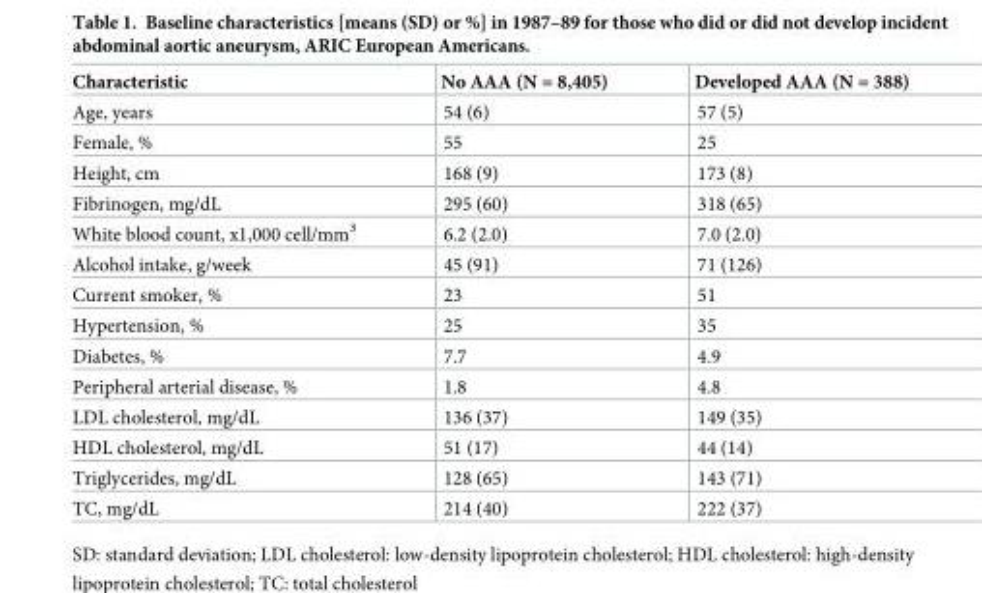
<table><thead><tr><td>Characteristic</td><td>No AAA (N = 8,405)</td><td>Developed AAA (N = 388)</td></tr></thead><tbody><tr><td>Age, years</td><td>54 (6)</td><td>57 (5)</td></tr><tr><td>Female, %</td><td>55</td><td>25</td></tr><tr><td>Height, cm</td><td>168 (9)</td><td>173 (8)</td></tr><tr><td>Fibrinogen, mg/dL</td><td>295 (60)</td><td>318 (65)</td></tr><tr><td>White blood count, x1,000 cell/mm<sup>3</sup></td><td>6.2 (2.0)</td><td>7.0 (2.0)</td></tr><tr><td>Alcohol intake, g/week</td><td>45 (91)</td><td>71 (126)</td></tr><tr><td>Current smoker, %</td><td>23</td><td>51</td></tr><tr><td>Hypertension, %</td><td>25</td><td>35</td></tr><tr><td>Diabetes, %</td><td>7.7</td><td>4.9</td></tr><tr><td>Peripheral arterial disease, %</td><td>1.8</td><td>4.8</td></tr><tr><td>LDL cholesterol, mg/dL</td><td>136 (37)</td><td>149 (35)</td></tr><tr><td>HDL cholesterol, mg/dL</td><td>51 (17)</td><td>44 (14)</td></tr><tr><td>Triglycerides, mg/dL</td><td>128 (65)</td><td>143 (71)</td></tr><tr><td>TC, mg/dL</td><td>214 (40)</td><td>222 (37)</td></tr></tbody></table>